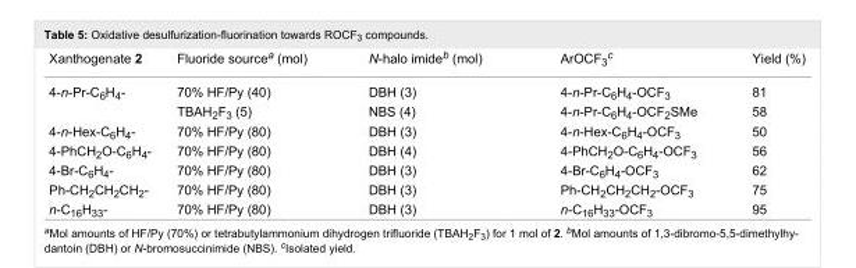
<table><tbody><tr><td>Xanthogenate 2</td><td>Fluoride source<sup>a</sup> (mol)</td><td>N-halo imide<sup>b</sup> (mol)</td><td>ArOCF<sub>3</sub><sup>c</sup></td><td>Yield (%)</td></tr><tr><td rowspan="2">4-n-Pr-C<sub>6</sub>H<sub>4</sub>-</td><td>70% HF/Py (40)</td><td>DBH (3)</td><td>4-n-Pr-C<sub>6</sub>H<sub>4</sub>-OCF<sub>3</sub></td><td>81</td></tr><tr><td>TBAH<sub>2</sub>F<sub>3</sub> (5)</td><td>NBS (4)</td><td>4-n-Pr-C<sub>6</sub>H<sub>4</sub>-OCF<sub>2</sub>SMe</td><td>58</td></tr><tr><td>4-n-Hex-C<sub>6</sub>H<sub>4</sub>-</td><td>70% HF/Py (80)</td><td>DBH (3)</td><td>4-n-Hex-C<sub>6</sub>H<sub>4</sub>-OCF<sub>3</sub></td><td>50</td></tr><tr><td>4-PhCH<sub>2</sub>O-C<sub>6</sub>H<sub>4</sub>-</td><td>70% HF/Py (80)</td><td>DBH (4)</td><td>4-PhCH<sub>2</sub>O-C<sub>6</sub>H<sub>4</sub>-OCF<sub>3</sub></td><td>56</td></tr><tr><td>4-Br-C<sub>6</sub>H<sub>4</sub>-</td><td>70% HF/Py (80)</td><td>DBH (3)</td><td>4-Br-C<sub>6</sub>H<sub>4</sub>-OCF<sub>3</sub></td><td>62</td></tr><tr><td>Ph-CH<sub>2</sub>CH<sub>2</sub>CH<sub>2</sub>-</td><td>70% HF/Py (80)</td><td>DBH (3)</td><td>Ph-CH<sub>2</sub>CH<sub>2</sub>CH<sub>2</sub>-OCF<sub>3</sub></td><td>75</td></tr><tr><td>n-C<sub>16</sub>H<sub>33</sub>-</td><td>70% HF/Py (80)</td><td>DBH (3)</td><td>n-C<sub>16</sub>H<sub>33</sub>-OCF<sub>3</sub></td><td>95</td></tr></tbody></table>